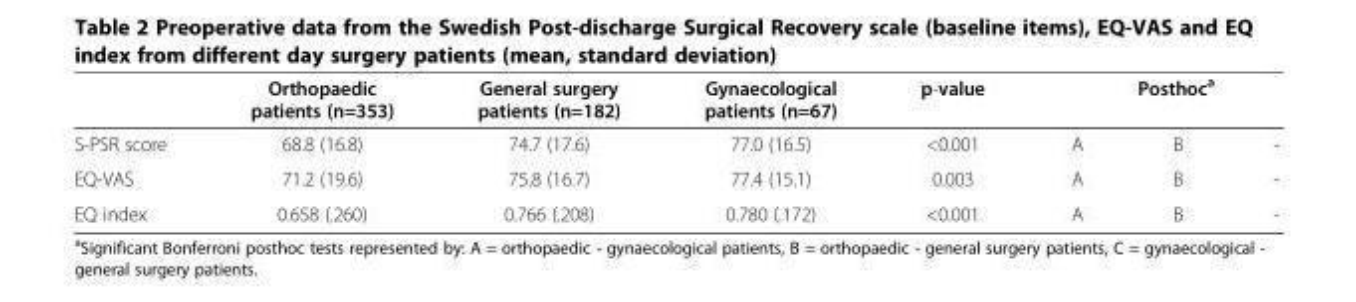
<table><thead><tr><td></td><td>Orthopaedic patients (n=353)</td><td>General surgery patients (n=182)</td><td>Gynaecological patients (n=67)</td><td>p-value</td><td></td><td>Posthoc<sup>a</sup></td><td></td></tr></thead><tbody><tr><td>S-PSR score</td><td>68.8 (16.8)</td><td>74.7 (17.6)</td><td>77.0 (16.5)</td><td>&lt;0.001</td><td>A</td><td>B</td><td>-</td></tr><tr><td>EQ-VAS</td><td>71.2 (19.6)</td><td>75.8 (16.7)</td><td>77.4 (15.1)</td><td>0.003</td><td>A</td><td>B</td><td>-</td></tr><tr><td>EQ index</td><td>0.658 (.260)</td><td>0.766 (.208)</td><td>0.780 (.172)</td><td>&lt;0.001</td><td>A</td><td>B</td><td>-</td></tr></tbody></table>